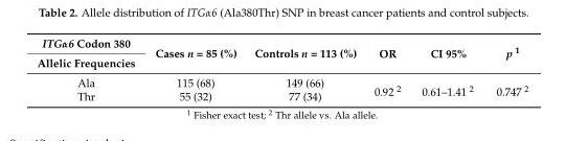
<table><thead><tr><td rowspan="2">ITGα6 Codon 380 Allelic Frequencies</td><td rowspan="2">Cases n = 85 (%)</td><td rowspan="2">Controls n = 113 (%)</td><td rowspan="2">OR</td><td rowspan="2">CI 95%</td><td rowspan="2">p <sup>1</sup></td></tr><tr></tr></thead><tbody><tr><td>Ala</td><td>115 (68)</td><td>149 (66)</td><td rowspan="2">0.92 <sup>2</sup></td><td rowspan="2">0.61–1.41 <sup>2</sup></td><td rowspan="2">0.747 <sup>2</sup></td></tr><tr><td>Thr</td><td>55 (32)</td><td>77 (34)</td></tr></tbody></table>